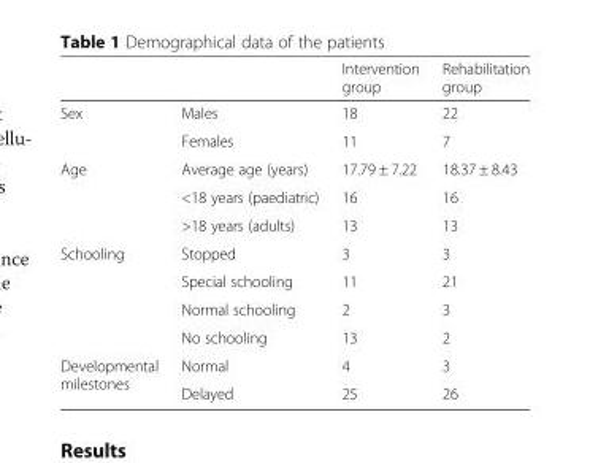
<table><thead><tr><td></td><td></td><td>Intervention group</td><td>Rehabilitation group</td></tr></thead><tbody><tr><td rowspan="2">Sex</td><td>Males</td><td>18</td><td>22</td></tr><tr><td>Females</td><td>11</td><td>7</td></tr><tr><td rowspan="3">Age</td><td>Average age (years)</td><td>17.79 ± 7.22</td><td>18.37 ± 8.43</td></tr><tr><td>&lt;18 years (paediatric)</td><td>16</td><td>16</td></tr><tr><td>&gt;18 years (adults)</td><td>13</td><td>13</td></tr><tr><td rowspan="4">Schooling</td><td>Stopped</td><td>3</td><td>3</td></tr><tr><td>Special schooling</td><td>11</td><td>21</td></tr><tr><td>Normal schooling</td><td>2</td><td>3</td></tr><tr><td>No schooling</td><td>13</td><td>2</td></tr><tr><td rowspan="2">Developmental milestones</td><td>Normal</td><td>4</td><td>3</td></tr><tr><td>Delayed</td><td>25</td><td>26</td></tr></tbody></table>